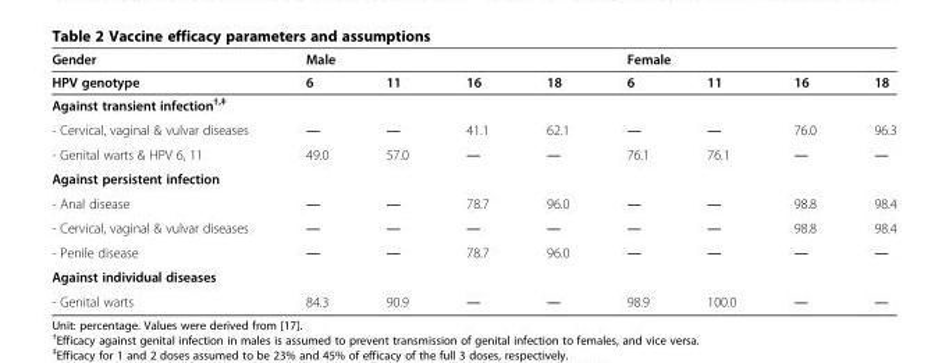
<table><thead><tr><td rowspan="2">Gender HPV genotype</td><td colspan="4">Male</td><td colspan="4">Female</td></tr><tr><td>6</td><td>11</td><td>16</td><td>18</td><td>6</td><td>11</td><td>16</td><td>18</td></tr></thead><tbody><tr><td colspan="9">Against transient infection<sup>†,‡</sup></td></tr><tr><td>- Cervical, vaginal &amp; vulvar diseases</td><td>―</td><td>―</td><td>41.1</td><td>62.1</td><td>―</td><td>―</td><td>76.0</td><td>96.3</td></tr><tr><td>- Genital warts &amp; HPV 6, 11</td><td>49.0</td><td>57.0</td><td>―</td><td>―</td><td>76.1</td><td>76.1</td><td>―</td><td>―</td></tr><tr><td colspan="9">Against persistent infection</td></tr><tr><td>- Anal disease</td><td>―</td><td>―</td><td>78.7</td><td>96.0</td><td>―</td><td>―</td><td>98.8</td><td>98.4</td></tr><tr><td>- Cervical, vaginal &amp; vulvar diseases</td><td>―</td><td>―</td><td>―</td><td>―</td><td>―</td><td>―</td><td>98.8</td><td>98.4</td></tr><tr><td>- Penile disease</td><td>―</td><td>―</td><td>78.7</td><td>96.0</td><td>―</td><td>―</td><td>―</td><td>―</td></tr><tr><td colspan="9">Against individual diseases</td></tr><tr><td>- Genital warts</td><td>84.3</td><td>90.9</td><td>―</td><td>―</td><td>98.9</td><td>100.0</td><td>―</td><td>―</td></tr></tbody></table>